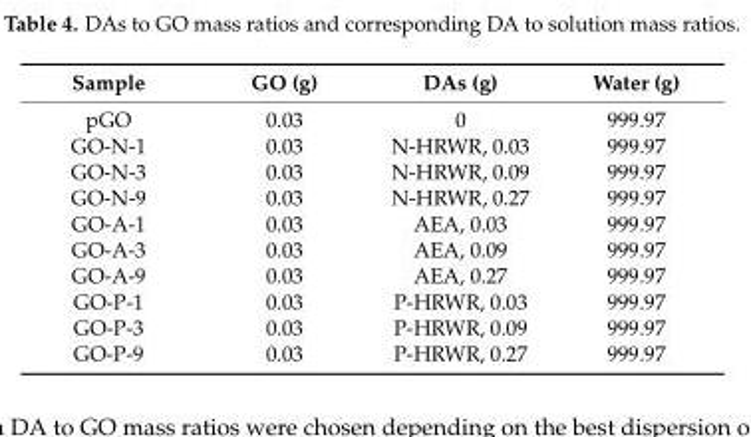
<table><thead><tr><td>Sample</td><td>GO (g)</td><td>DAs (g)</td><td>Water (g)</td></tr></thead><tbody><tr><td>pGO</td><td>0.03</td><td>0</td><td>999.97</td></tr><tr><td>GO-N-1</td><td>0.03</td><td>N-HRWR, 0.03</td><td>999.97</td></tr><tr><td>GO-N-3</td><td>0.03</td><td>N-HRWR, 0.09</td><td>999.97</td></tr><tr><td>GO-N-9</td><td>0.03</td><td>N-HRWR, 0.27</td><td>999.97</td></tr><tr><td>GO-A-1</td><td>0.03</td><td>AEA, 0.03</td><td>999.97</td></tr><tr><td>GO-A-3</td><td>0.03</td><td>AEA, 0.09</td><td>999.97</td></tr><tr><td>GO-A-9</td><td>0.03</td><td>AEA, 0.27</td><td>999.97</td></tr><tr><td>GO-P-1</td><td>0.03</td><td>P-HRWR, 0.03</td><td>999.97</td></tr><tr><td>GO-P-3</td><td>0.03</td><td>P-HRWR, 0.09</td><td>999.97</td></tr><tr><td>GO-P-9</td><td>0.03</td><td>P-HRWR, 0.27</td><td>999.97</td></tr></tbody></table>